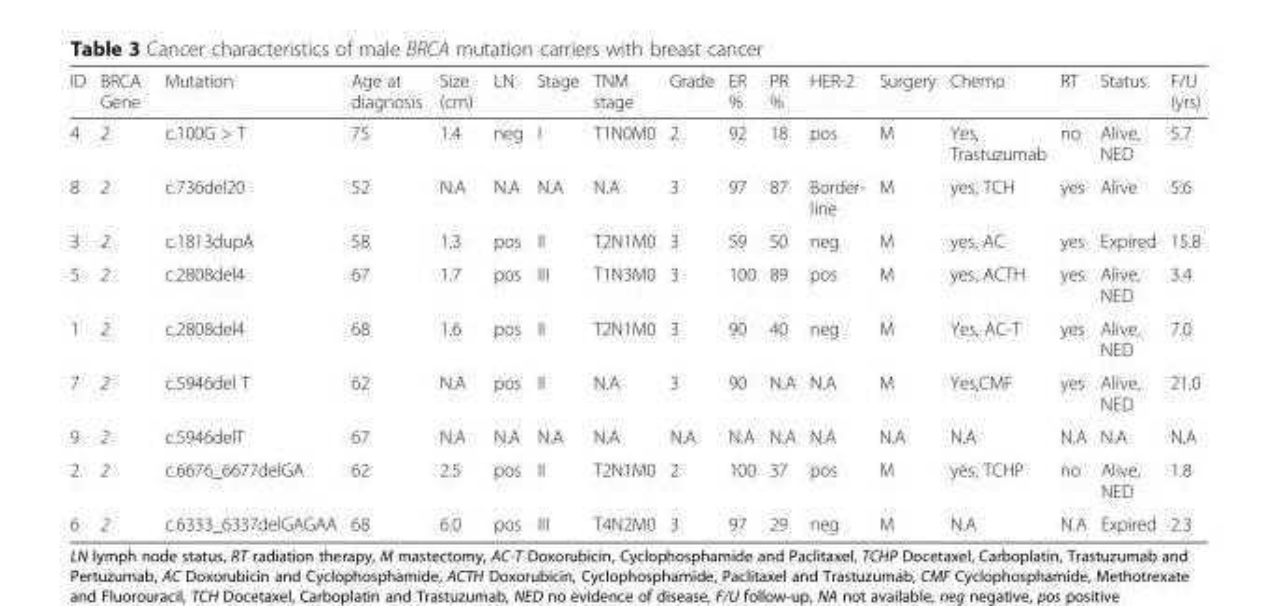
<table><thead><tr><td>ID</td><td>BRCA Gene</td><td>Mutation</td><td>Age at diagnosis</td><td>Size (cm)</td><td>LN</td><td>Stage</td><td>TNM stage</td><td>Grade</td><td>ER %</td><td>PR %</td><td>HER-2</td><td>Surgery</td><td>Chemo</td><td>RT</td><td>Status</td><td>F/U (yrs)</td></tr></thead><tbody><tr><td>4</td><td>2</td><td>c.100G &gt; T</td><td>75</td><td>1.4</td><td>neg</td><td>I</td><td>T1N0M0</td><td>2</td><td>92</td><td>18</td><td>pos</td><td>M</td><td>Yes, Trastuzumab</td><td>no</td><td>Alive, NED</td><td>5.7</td></tr><tr><td>8</td><td>2</td><td>c.736del20</td><td>52</td><td>N.A</td><td>N.A</td><td>N.A</td><td>N.A</td><td>3</td><td>97</td><td>87</td><td>Border- line</td><td>M</td><td>yes, TCH</td><td>yes</td><td>Alive</td><td>5.6</td></tr><tr><td>3</td><td>2</td><td>c.1813dupA</td><td>58</td><td>1.3</td><td>pos</td><td>II</td><td>T2N1M0</td><td>3</td><td>59</td><td>50</td><td>neg</td><td>M</td><td>yes, AC</td><td>yes</td><td>Expired</td><td>15.8</td></tr><tr><td>5</td><td>2</td><td>c.2808del4</td><td>67</td><td>1.7</td><td>pos</td><td>III</td><td>T1N3M0</td><td>3</td><td>100</td><td>89</td><td>pos</td><td>M</td><td>yes, ACTH</td><td>yes</td><td>Alive, NED</td><td>3.4</td></tr><tr><td>1</td><td>2</td><td>c.2808del4</td><td>68</td><td>1.6</td><td>pos</td><td>II</td><td>T2N1M0</td><td>3</td><td>90</td><td>40</td><td>neg</td><td>M</td><td>Yes, AC-T</td><td>yes</td><td>Alive, NED</td><td>7.0</td></tr><tr><td>7</td><td>2</td><td>c.5946del T</td><td>62</td><td>N.A</td><td>pos</td><td>II</td><td>N.A</td><td>3</td><td>90</td><td>N.A</td><td>N.A</td><td>M</td><td>Yes,CMF</td><td>yes</td><td>Alive, NED</td><td>21.0</td></tr><tr><td>9</td><td>2</td><td>c.5946delT</td><td>67</td><td>N.A</td><td>N.A</td><td>N.A</td><td>N.A</td><td>N.A</td><td>N.A</td><td>N.A</td><td>N.A</td><td>N.A</td><td>N.A</td><td>N.A</td><td>N.A</td><td>N.A</td></tr><tr><td>2</td><td>2</td><td>c.6676_6677delGA</td><td>62</td><td>2.5</td><td>pos</td><td>II</td><td>T2N1M0</td><td>2</td><td>100</td><td>37</td><td>pos</td><td>M</td><td>yes, TCHP</td><td>no</td><td>Alive, NED</td><td>1.8</td></tr><tr><td>6</td><td>2</td><td>c.6333_6337delGAGAA</td><td>68</td><td>6.0</td><td>pos</td><td>III</td><td>T4N2M0</td><td>3</td><td>97</td><td>29</td><td>neg</td><td>M</td><td>N.A</td><td>N.A</td><td>Expired</td><td>2.3</td></tr></tbody></table>